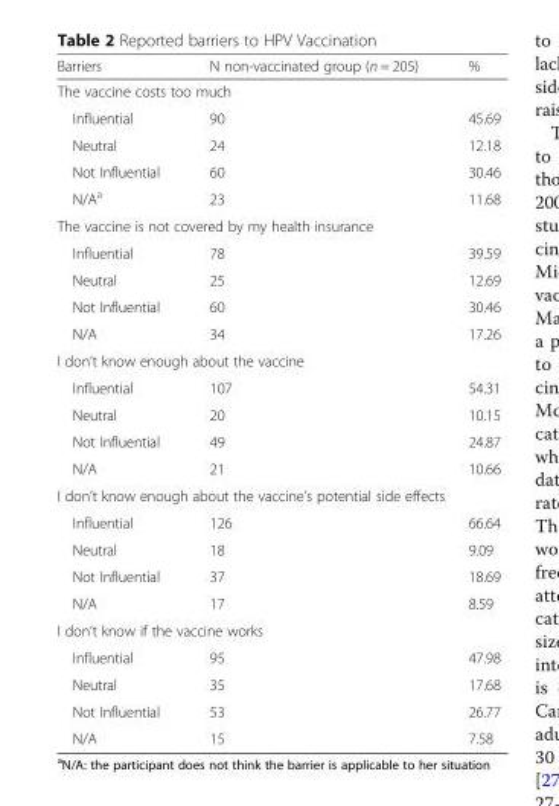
<table><thead><tr><td>Barriers</td><td>N non-vaccinated group (n = 205)</td><td>%</td></tr></thead><tbody><tr><td colspan="3">The vaccine costs too much</td></tr><tr><td>Influential</td><td>90</td><td>45.69</td></tr><tr><td>Neutral</td><td>24</td><td>12.18</td></tr><tr><td>Not Influential</td><td>60</td><td>30.46</td></tr><tr><td>N/A<sup>a</sup></td><td>23</td><td>11.68</td></tr><tr><td colspan="3">The vaccine is not covered by my health insurance</td></tr><tr><td>Influential</td><td>78</td><td>39.59</td></tr><tr><td>Neutral</td><td>25</td><td>12.69</td></tr><tr><td>Not Influential</td><td>60</td><td>30.46</td></tr><tr><td>N/A</td><td>34</td><td>17.26</td></tr><tr><td colspan="3">I don’t know enough about the vaccine</td></tr><tr><td>Influential</td><td>107</td><td>54.31</td></tr><tr><td>Neutral</td><td>20</td><td>10.15</td></tr><tr><td>Not Influential</td><td>49</td><td>24.87</td></tr><tr><td>N/A</td><td>21</td><td>10.66</td></tr><tr><td colspan="3">I don’t know enough about the vaccine’s potential side effects</td></tr><tr><td>Influential</td><td>126</td><td>66.64</td></tr><tr><td>Neutral</td><td>18</td><td>9.09</td></tr><tr><td>Not Influential</td><td>37</td><td>18.69</td></tr><tr><td>N/A</td><td>17</td><td>8.59</td></tr><tr><td colspan="3">I don’t know if the vaccine works</td></tr><tr><td>Influential</td><td>95</td><td>47.98</td></tr><tr><td>Neutral</td><td>35</td><td>17.68</td></tr><tr><td>Not Influential</td><td>53</td><td>26.77</td></tr><tr><td>N/A</td><td>15</td><td>7.58</td></tr></tbody></table>